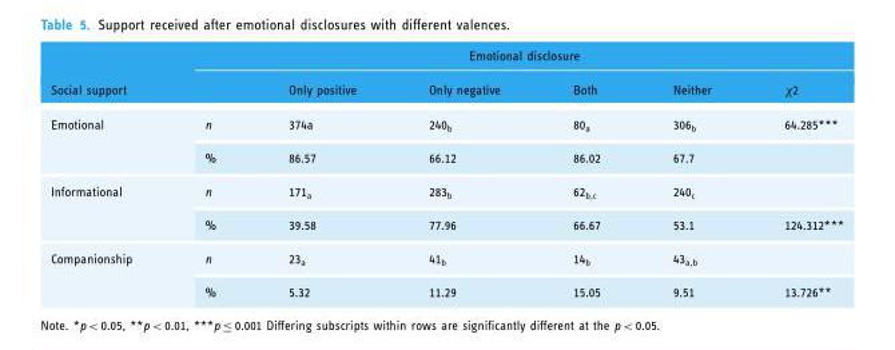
<table><thead><tr><td rowspan="2">Social support</td><td colspan="6">Emotional disclosure</td></tr><tr><td></td><td>Only positive</td><td>Only negative</td><td>Both</td><td>Neither</td><td>χ2</td></tr></thead><tbody><tr><td rowspan="2">Emotional</td><td>n</td><td>374a</td><td>240<sub>b</sub></td><td>80<sub>a</sub></td><td>306<sub>b</sub></td><td>64.285***</td></tr><tr><td>%</td><td>86.57</td><td>66.12</td><td>86.02</td><td>67.7</td><td></td></tr><tr><td rowspan="2">Informational</td><td>n</td><td>171<sub>a</sub></td><td>283<sub>b</sub></td><td>62<sub>b,c</sub></td><td>240<sub>c</sub></td><td></td></tr><tr><td>%</td><td>39.58</td><td>77.96</td><td>66.67</td><td>53.1</td><td>124.312***</td></tr><tr><td rowspan="2">Companionship</td><td>n</td><td>23<sub>a</sub></td><td>41<sub>b</sub></td><td>14<sub>b</sub></td><td>43<sub>a,b</sub></td><td></td></tr><tr><td>%</td><td>5.32</td><td>11.29</td><td>15.05</td><td>9.51</td><td>13.726**</td></tr></tbody></table>